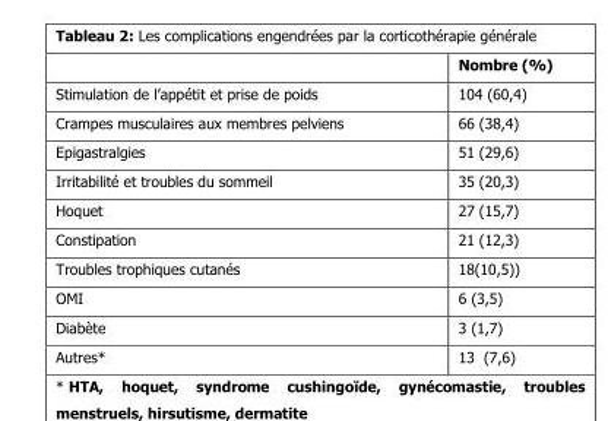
<table><thead><tr><td></td><td>Nombre (%)</td></tr></thead><tbody><tr><td>Stimulation de l’appétit et prise de poids</td><td>104 (60,4)</td></tr><tr><td>Crampes musculaires aux membres pelviens</td><td>66 (38,4)</td></tr><tr><td>Epigastralgies</td><td>51 (29,6)</td></tr><tr><td>Irritabilité et troubles du sommeil</td><td>35 (20,3)</td></tr><tr><td>Hoquet</td><td>27 (15,7)</td></tr><tr><td>Constipation</td><td>21 (12,3)</td></tr><tr><td>Troubles trophiques cutanés</td><td>18(10,5))</td></tr><tr><td>OMI</td><td>6 (3,5)</td></tr><tr><td>Diabète</td><td>3 (1,7)</td></tr><tr><td>Autres*</td><td>13 (7,6)</td></tr></tbody></table>